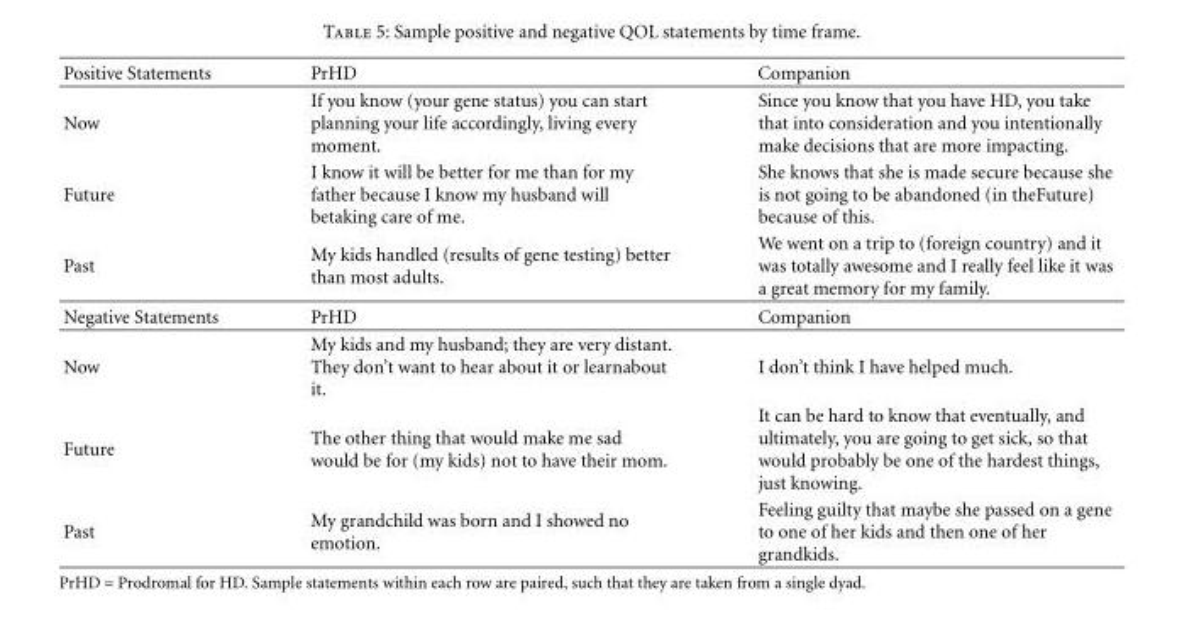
<table><thead><tr><td>Positive Statements</td><td>PrHD</td><td>Companion</td></tr></thead><tbody><tr><td>Now</td><td>If you know (your gene status) you can start planning your life accordingly, living every moment.</td><td>Since you know that you have HD, you take that into consideration and you intentionally make decisions that are more impacting.</td></tr><tr><td>Future</td><td>I know it will be better for me than for my father because I know my husband will betaking care of me.</td><td>She knows that she is made secure because she is not going to be abandoned (in theFuture) because of this.</td></tr><tr><td>Past</td><td>My kids handled (results of gene testing) better than most adults.</td><td>We went on a trip to (foreign country) and it was totally awesome and I really feel like it was a great memory for my family.</td></tr><tr><td>Negative Statements</td><td>PrHD</td><td>Companion</td></tr><tr><td>Now</td><td>My kids and my husband; they are very distant. They don’t want to hear about it or learnabout it.</td><td>I don’t think I have helped much.</td></tr><tr><td>Future</td><td>The other thing that would make me sad would be for (my kids) not to have their mom.</td><td>It can be hard to know that eventually, and ultimately, you are going to get sick, so that would probably be one of the hardest things, just knowing.</td></tr><tr><td>Past</td><td>My grandchild was born and I showed no emotion.</td><td>Feeling guilty that maybe she passed on a gene to one of her kids and then one of her grandkids.</td></tr></tbody></table>